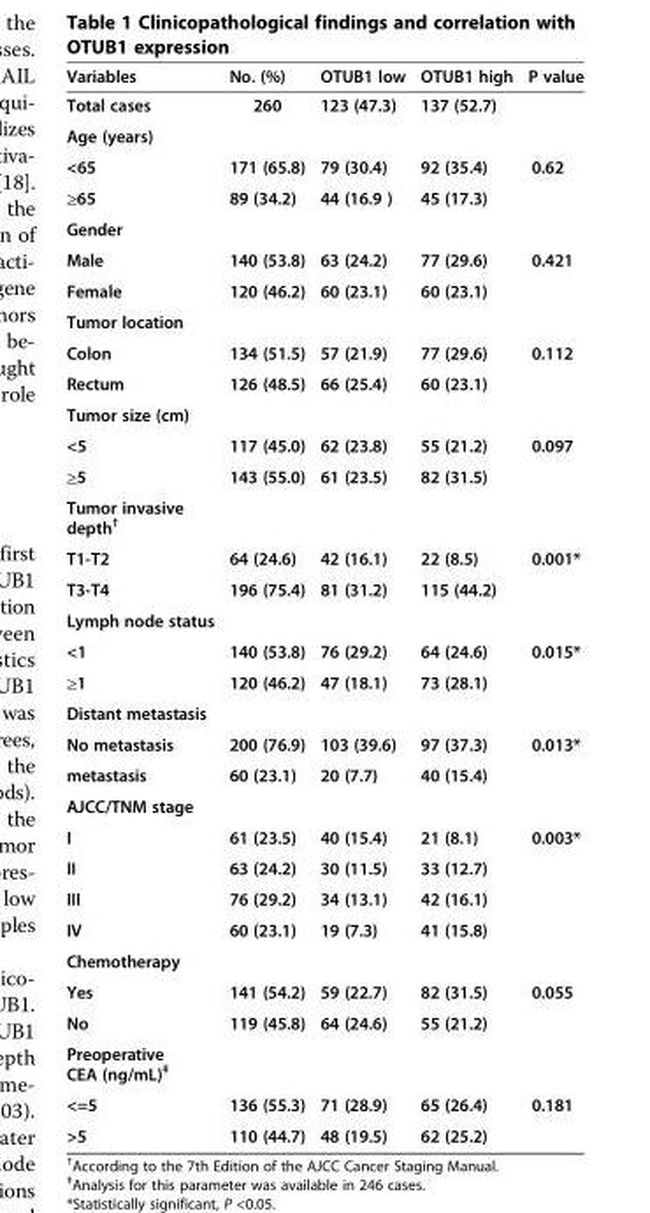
<table><thead><tr><td>Variables</td><td>No. (%)</td><td>OTUB1 low</td><td>OTUB1 high</td><td>P value</td></tr></thead><tbody><tr><td>Total cases</td><td>260</td><td>123 (47.3)</td><td>137 (52.7)</td><td></td></tr><tr><td colspan="5">Age (years)</td></tr><tr><td>&lt;65</td><td>171 (65.8)</td><td>79 (30.4)</td><td>92 (35.4)</td><td>0.62</td></tr><tr><td>≥65</td><td>89 (34.2)</td><td>44 (16.9 )</td><td>45 (17.3)</td><td></td></tr><tr><td colspan="5">Gender</td></tr><tr><td>Male</td><td>140 (53.8)</td><td>63 (24.2)</td><td>77 (29.6)</td><td>0.421</td></tr><tr><td>Female</td><td>120 (46.2)</td><td>60 (23.1)</td><td>60 (23.1)</td><td></td></tr><tr><td colspan="5">Tumor location</td></tr><tr><td>Colon</td><td>134 (51.5)</td><td>57 (21.9)</td><td>77 (29.6)</td><td>0.112</td></tr><tr><td>Rectum</td><td>126 (48.5)</td><td>66 (25.4)</td><td>60 (23.1)</td><td></td></tr><tr><td colspan="5">Tumor size (cm)</td></tr><tr><td>&lt;5</td><td>117 (45.0)</td><td>62 (23.8)</td><td>55 (21.2)</td><td>0.097</td></tr><tr><td>≥5</td><td>143 (55.0)</td><td>61 (23.5)</td><td>82 (31.5)</td><td></td></tr><tr><td colspan="5">Tumor invasive depth<sup>†</sup></td></tr><tr><td>T1-T2</td><td>64 (24.6)</td><td>42 (16.1)</td><td>22 (8.5)</td><td>0.001*</td></tr><tr><td>T3-T4</td><td>196 (75.4)</td><td>81 (31.2)</td><td>115 (44.2)</td><td></td></tr><tr><td colspan="5">Lymph node status</td></tr><tr><td>&lt;1</td><td>140 (53.8)</td><td>76 (29.2)</td><td>64 (24.6)</td><td>0.015*</td></tr><tr><td>≥1</td><td>120 (46.2)</td><td>47 (18.1)</td><td>73 (28.1)</td><td></td></tr><tr><td colspan="5">Distant metastasis</td></tr><tr><td>No metastasis</td><td>200 (76.9)</td><td>103 (39.6)</td><td>97 (37.3)</td><td>0.013*</td></tr><tr><td>metastasis</td><td>60 (23.1)</td><td>20 (7.7)</td><td>40 (15.4)</td><td></td></tr><tr><td colspan="5">AJCC/TNM stage</td></tr><tr><td>I</td><td>61 (23.5)</td><td>40 (15.4)</td><td>21 (8.1)</td><td>0.003*</td></tr><tr><td>II</td><td>63 (24.2)</td><td>30 (11.5)</td><td>33 (12.7)</td><td></td></tr><tr><td>III</td><td>76 (29.2)</td><td>34 (13.1)</td><td>42 (16.1)</td><td></td></tr><tr><td>IV</td><td>60 (23.1)</td><td>19 (7.3)</td><td>41 (15.8)</td><td></td></tr><tr><td colspan="5">Chemotherapy</td></tr><tr><td>Yes</td><td>141 (54.2)</td><td>59 (22.7)</td><td>82 (31.5)</td><td>0.055</td></tr><tr><td>No</td><td>119 (45.8)</td><td>64 (24.6)</td><td>55 (21.2)</td><td></td></tr><tr><td colspan="5">Preoperative CEA (ng/mL)<sup>‡</sup></td></tr><tr><td>&lt;=5</td><td>136 (55.3)</td><td>71 (28.9)</td><td>65 (26.4)</td><td>0.181</td></tr><tr><td>&gt;5</td><td>110 (44.7)</td><td>48 (19.5)</td><td>62 (25.2)</td><td></td></tr></tbody></table>